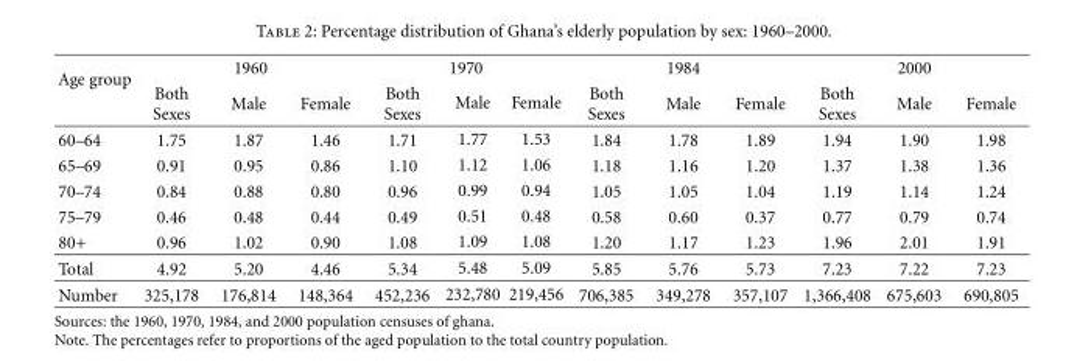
<table><thead><tr><td rowspan="2">Age group</td><td colspan="3">1960</td><td colspan="3">1970</td><td colspan="3">1984</td><td colspan="3">2000</td></tr><tr><td>Both Sexes</td><td>Male</td><td>Female</td><td>Both Sexes</td><td>Male</td><td>Female</td><td>Both Sexes</td><td>Male</td><td>Female</td><td>Both Sexes</td><td>Male</td><td>Female</td></tr></thead><tbody><tr><td>60–64</td><td>1.75</td><td>1.87</td><td>1.46</td><td>1.71</td><td>1.77</td><td>1.53</td><td>1.84</td><td>1.78</td><td>1.89</td><td>1.94</td><td>1.90</td><td>1.98</td></tr><tr><td>65–69</td><td>0.91</td><td>0.95</td><td>0.86</td><td>1.10</td><td>1.12</td><td>1.06</td><td>1.18</td><td>1.16</td><td>1.20</td><td>1.37</td><td>1.38</td><td>1.36</td></tr><tr><td>70–74</td><td>0.84</td><td>0.88</td><td>0.80</td><td>0.96</td><td>0.99</td><td>0.94</td><td>1.05</td><td>1.05</td><td>1.04</td><td>1.19</td><td>1.14</td><td>1.24</td></tr><tr><td>75–79</td><td>0.46</td><td>0.48</td><td>0.44</td><td>0.49</td><td>0.51</td><td>0.48</td><td>0.58</td><td>0.60</td><td>0.37</td><td>0.77</td><td>0.79</td><td>0.74</td></tr><tr><td>80+</td><td>0.96</td><td>1.02</td><td>0.90</td><td>1.08</td><td>1.09</td><td>1.08</td><td>1.20</td><td>1.17</td><td>1.23</td><td>1.96</td><td>2.01</td><td>1.91</td></tr><tr><td>Total</td><td>4.92</td><td>5.20</td><td>4.46</td><td>5.34</td><td>5.48</td><td>5.09</td><td>5.85</td><td>5.76</td><td>5.73</td><td>7.23</td><td>7.22</td><td>7.23</td></tr><tr><td>Number</td><td>325,178</td><td>176,814</td><td>148,364</td><td>452,236</td><td>232,780</td><td>219,456</td><td>706,385</td><td>349,278</td><td>357,107</td><td>1,366,408</td><td>675,603</td><td>690,805</td></tr></tbody></table>